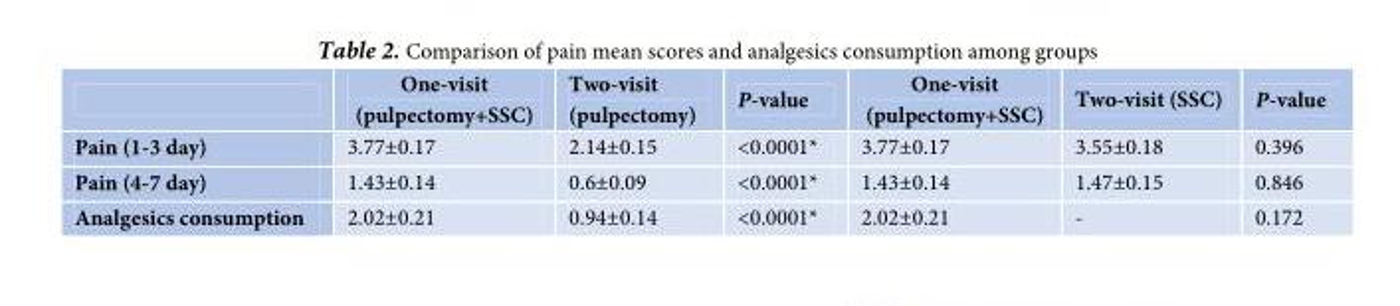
<table><thead><tr><td></td><td>One-visit (pulpectomy+SSC)</td><td>Two-visit (pulpectomy)</td><td>P-value</td><td>One-visit (pulpectomy+SSC)</td><td>Two-visit (SSC)</td><td>P-value</td></tr></thead><tbody><tr><td>Pain (1-3 day)</td><td>3.77±0.17</td><td>2.14±0.15</td><td>&lt;0.0001*</td><td>3.77±0.17</td><td>3.55±0.18</td><td>0.396</td></tr><tr><td>Pain (4-7 day)</td><td>1.43±0.14</td><td>0.6±0.09</td><td>&lt;0.0001*</td><td>1.43±0.14</td><td>1.47±0.15</td><td>0.846</td></tr><tr><td>Analgesics consumption</td><td>2.02±0.21</td><td>0.94±0.14</td><td>&lt;0.0001*</td><td>2.02±0.21</td><td>-</td><td>0.172</td></tr></tbody></table>